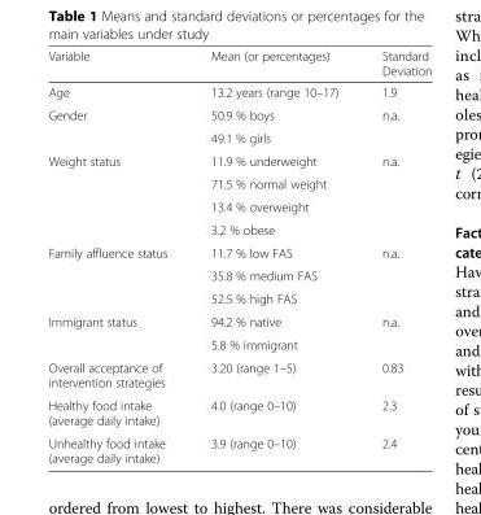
<table><thead><tr><td>Variable</td><td>Mean (or percentages)</td><td>Standard Deviation</td></tr></thead><tbody><tr><td>Age</td><td>13.2 years (range 10–17)</td><td>1.9</td></tr><tr><td rowspan="2">Gender</td><td>50.9 % boys</td><td rowspan="2">n.a.</td></tr><tr><td>49.1 % girls</td></tr><tr><td rowspan="4">Weight status</td><td>11.9 % underweight</td><td rowspan="4">n.a.</td></tr><tr><td>71.5 % normal weight</td></tr><tr><td>13.4 % overweight</td></tr><tr><td>3.2 % obese</td></tr><tr><td rowspan="3">Family affluence status</td><td>11.7 % low FAS</td><td rowspan="3">n.a.</td></tr><tr><td>35.8 % medium FAS</td></tr><tr><td>52.5 % high FAS</td></tr><tr><td rowspan="2">Immigrant status</td><td>94.2 % native</td><td rowspan="2">n.a.</td></tr><tr><td>5.8 % immigrant</td></tr><tr><td>Overall acceptance of intervention strategies</td><td>3.20 (range 1–5)</td><td>0.83</td></tr><tr><td>Healthy food intake (average daily intake)</td><td>4.0 (range 0–10)</td><td>2.3</td></tr><tr><td>Unhealthy food intake (average daily intake)</td><td>3.9 (range 0–10)</td><td>2.4</td></tr></tbody></table>